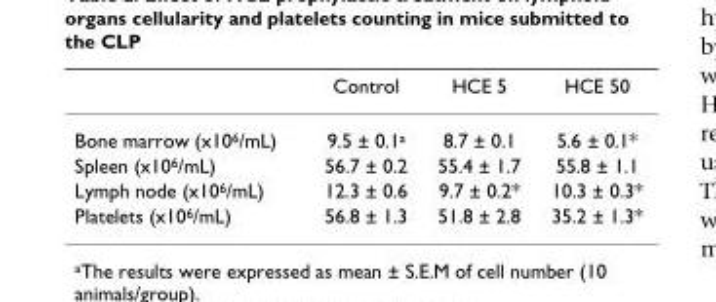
<table><thead><tr><td></td><td>Control</td><td>HCE 5</td><td>HCE 50</td></tr></thead><tbody><tr><td>Bone marrow (x10<sup>6</sup>/mL)</td><td>9.5 ± 0.1<sup>a</sup></td><td>8.7 ± 0.1</td><td>5.6 ± 0.1*</td></tr><tr><td>Spleen (x10<sup>6</sup>/mL)</td><td>56.7 ± 0.2</td><td>55.4 ± 1.7</td><td>55.8 ± 1.1</td></tr><tr><td>Lymph node (x10<sup>6</sup>/mL)</td><td>12.3 ± 0.6</td><td>9.7 ± 0.2*</td><td>10.3 ± 0.3*</td></tr><tr><td>Platelets (x10<sup>6</sup>/mL)</td><td>56.8 ± 1.3</td><td>51.8 ± 2.8</td><td>35.2 ± 1.3*</td></tr></tbody></table>